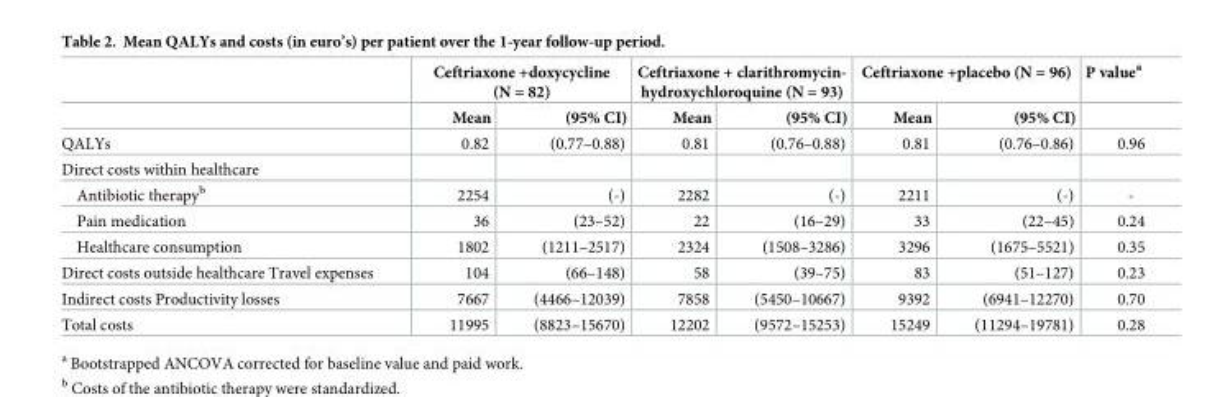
<table><thead><tr><td rowspan="2"></td><td colspan="2">Ceftriaxone +doxycycline (N = 82)</td><td colspan="2">Ceftriaxone + clarithromycin- hydroxychloroquine (N = 93)</td><td colspan="2">Ceftriaxone +placebo (N = 96)</td><td rowspan="2">P value<sup>a</sup></td></tr><tr><td>Mean</td><td>(95% CI)</td><td>Mean</td><td>(95% CI)</td><td>Mean</td><td>(95% CI)</td></tr></thead><tbody><tr><td>QALYs</td><td>0.82</td><td>(0.77–0.88)</td><td>0.81</td><td>(0.76–0.88)</td><td>0.81</td><td>(0.76–0.86)</td><td>0.96</td></tr><tr><td colspan="8">Direct costs within healthcare</td></tr><tr><td>Antibiotic therapy<sup>b</sup></td><td>2254</td><td>(-)</td><td>2282</td><td>(-)</td><td>2211</td><td>(-)</td><td>-</td></tr><tr><td>Pain medication</td><td>36</td><td>(23–52)</td><td>22</td><td>(16–29)</td><td>33</td><td>(22–45)</td><td>0.24</td></tr><tr><td>Healthcare consumption</td><td>1802</td><td>(1211–2517)</td><td>2324</td><td>(1508–3286)</td><td>3296</td><td>(1675–5521)</td><td>0.35</td></tr><tr><td>Direct costs outside healthcare Travel expenses</td><td>104</td><td>(66–148)</td><td>58</td><td>(39–75)</td><td>83</td><td>(51–127)</td><td>0.23</td></tr><tr><td>Indirect costs Productivity losses</td><td>7667</td><td>(4466–12039)</td><td>7858</td><td>(5450–10667)</td><td>9392</td><td>(6941–12270)</td><td>0.70</td></tr><tr><td>Total costs</td><td>11995</td><td>(8823–15670)</td><td>12202</td><td>(9572–15253)</td><td>15249</td><td>(11294–19781)</td><td>0.28</td></tr></tbody></table>